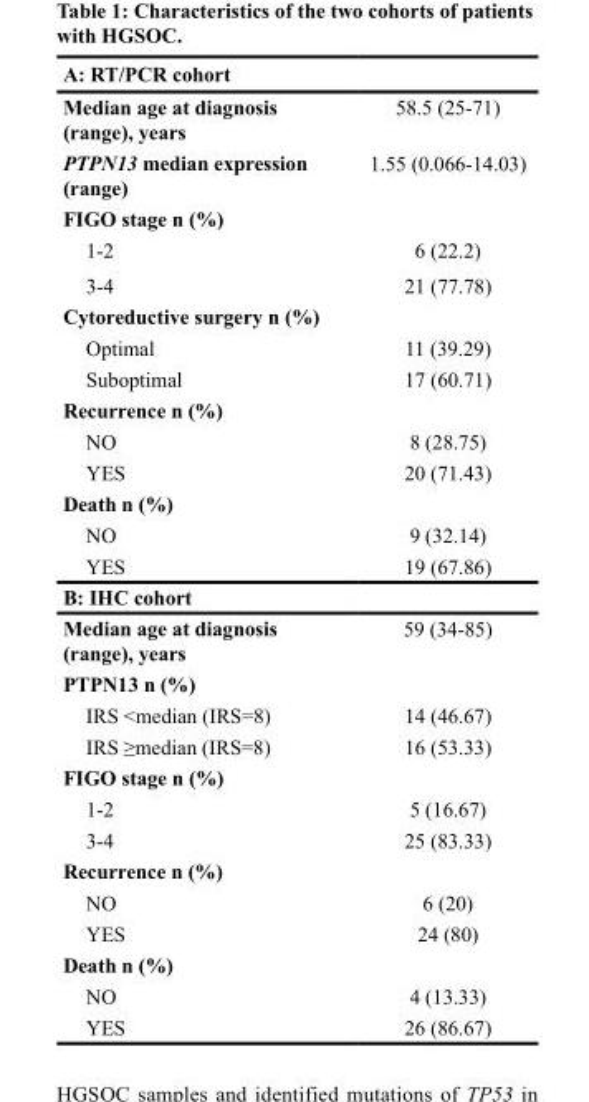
<table><thead><tr><td>A: RT/PCR cohort</td><td></td></tr></thead><tbody><tr><td>Median age at diagnosis (range), years</td><td>58.5 (25-71)</td></tr><tr><td>PTPN13 median expression (range)</td><td>1.55 (0.066-14.03)</td></tr><tr><td colspan="2">FIGO stage n (%)</td></tr><tr><td>1-2</td><td>6 (22.2)</td></tr><tr><td>3-4</td><td>21 (77.78)</td></tr><tr><td colspan="2">Cytoreductive surgery n (%)</td></tr><tr><td>Optimal</td><td>11 (39.29)</td></tr><tr><td>Suboptimal</td><td>17 (60.71)</td></tr><tr><td colspan="2">Recurrence n (%)</td></tr><tr><td>NO</td><td>8 (28.75)</td></tr><tr><td>YES</td><td>20 (71.43)</td></tr><tr><td colspan="2">Death n (%)</td></tr><tr><td>NO</td><td>9 (32.14)</td></tr><tr><td>YES</td><td>19 (67.86)</td></tr><tr><td colspan="2">B: IHC cohort</td></tr><tr><td>Median age at diagnosis (range), years</td><td>59 (34-85)</td></tr><tr><td colspan="2">PTPN13 n (%)</td></tr><tr><td>IRS &lt;median (IRS=8)</td><td>14 (46.67)</td></tr><tr><td>IRS ≥median (IRS=8)</td><td>16 (53.33)</td></tr><tr><td colspan="2">FIGO stage n (%)</td></tr><tr><td>1-2</td><td>5 (16.67)</td></tr><tr><td>3-4</td><td>25 (83.33)</td></tr><tr><td colspan="2">Recurrence n (%)</td></tr><tr><td>NO</td><td>6 (20)</td></tr><tr><td>YES</td><td>24 (80)</td></tr><tr><td colspan="2">Death n (%)</td></tr><tr><td>NO</td><td>4 (13.33)</td></tr><tr><td>YES</td><td>26 (86.67)</td></tr></tbody></table>